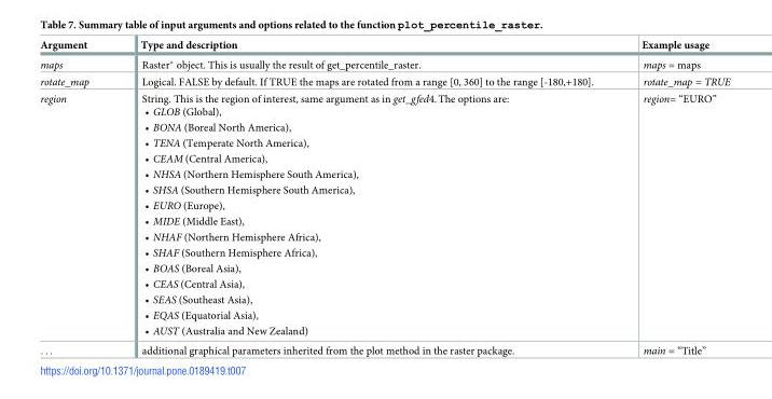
<table><thead><tr><td>Argument</td><td>Type and description</td><td>Example usage</td></tr></thead><tbody><tr><td>maps</td><td>Raster* object. This is usually the result of get_percentile_raster.</td><td>maps = maps</td></tr><tr><td>rotate_map</td><td>Logical. FALSE by default. If TRUE the maps are rotated from a range [0, 360] to the range [-180,+180].</td><td>rotate_map = TRUE</td></tr><tr><td>region</td><td>String. This is the region of interest, same argument as in get_gfed4.The options are: • GLOB (Global), • BONA (Boreal North America), • TENA (Temperate North America), • CEAM (Central America), • NHSA (Northern Hemisphere South America), • SHSA (Southern Hemisphere South America), • EURO (Europe), • MIDE (Middle East), • NHAF (Northern Hemisphere Africa), • SHAF (Southern Hemisphere Africa), • BOAS (Boreal Asia), • CEAS (Central Asia), • SEAS (Southeast Asia), • EQAS (Equatorial Asia), • AUST (Australia and New Zealand)</td><td>region= “EURO”</td></tr><tr><td>. . .</td><td>additional graphical parameters inherited from the plot method in the raster package.</td><td>main = “Title”</td></tr></tbody></table>